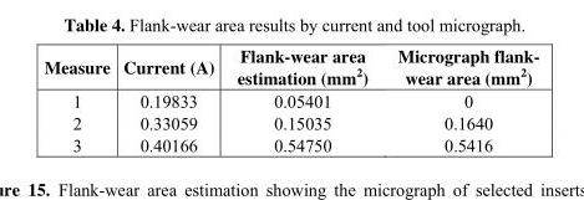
<table><thead><tr><td>Measure</td><td>Current (A)</td><td>Flank-wear area estimation (mm<sup>2</sup>)</td><td>Micrograph flank- wear area (mm<sup>2</sup>)</td></tr></thead><tbody><tr><td>1</td><td>0.19833</td><td>0.05401</td><td>0</td></tr><tr><td>2</td><td>0.33059</td><td>0.15035</td><td>0.1640</td></tr><tr><td>3</td><td>0.40166</td><td>0.54750</td><td>0.5416</td></tr></tbody></table>